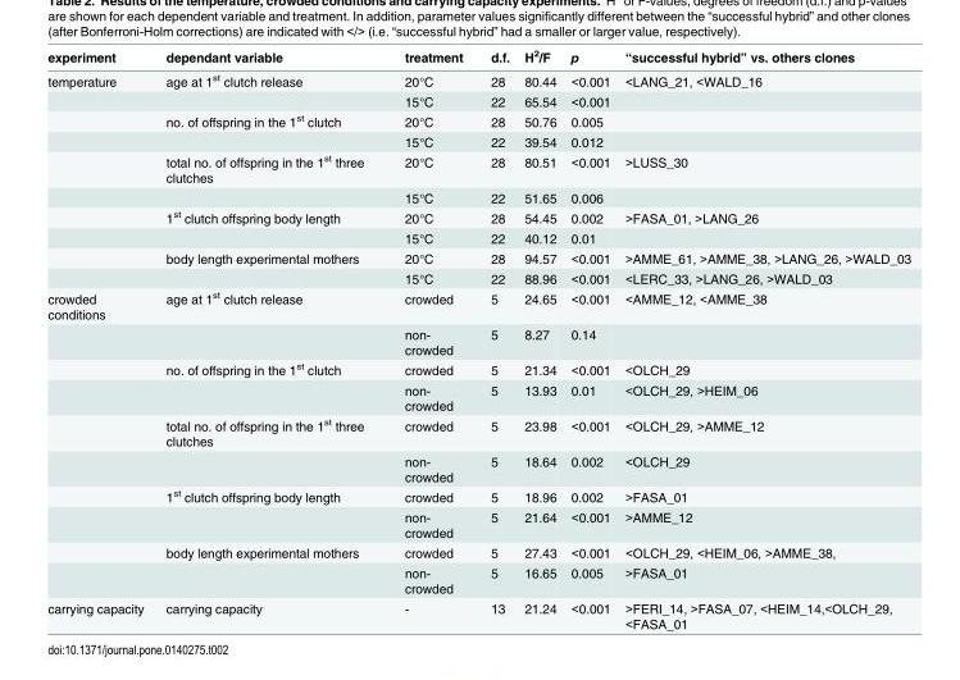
<table><thead><tr><td>experiment</td><td>dependant variable</td><td>treatment</td><td>d.f.</td><td>H<sup>2</sup>/F</td><td>p</td><td>“successful hybrid” vs. others clones</td></tr></thead><tbody><tr><td rowspan="10">temperature</td><td>age at 1<sup>st</sup> clutch release</td><td>20°C</td><td>28</td><td>80.44</td><td>&lt;0.001</td><td>&lt;LANG_21, &lt;WALD_16</td></tr><tr><td></td><td>15°C</td><td>22</td><td>65.54</td><td>&lt;0.001</td><td></td></tr><tr><td>no. of offspring in the 1<sup>st</sup> clutch</td><td>20°C</td><td>28</td><td>50.76</td><td>0.005</td><td></td></tr><tr><td></td><td>15°C</td><td>22</td><td>39.54</td><td>0.012</td><td></td></tr><tr><td>total no. of offspring in the 1<sup>st</sup> three clutches</td><td>20°C</td><td>28</td><td>80.51</td><td>&lt;0.001</td><td>&gt;LUSS_30</td></tr><tr><td></td><td>15°C</td><td>22</td><td>51.65</td><td>0.006</td><td></td></tr><tr><td>1<sup>st</sup> clutch offspring body length</td><td>20°C</td><td>28</td><td>54.45</td><td>0.002</td><td>&gt;FASA_01, &gt;LANG_26</td></tr><tr><td></td><td>15°C</td><td>22</td><td>40.12</td><td>0.01</td><td></td></tr><tr><td>body length experimental mothers</td><td>20°C</td><td>28</td><td>94.57</td><td>&lt;0.001</td><td>&gt;AMME_61, &gt;AMME_38, &gt;LANG_26, &gt;WALD_03</td></tr><tr><td></td><td>15°C</td><td>22</td><td>88.96</td><td>&lt;0.001</td><td>&lt;LERC_33, &gt;LANG_26, &gt;WALD_03</td></tr><tr><td rowspan="10">crowded conditions</td><td>age at 1<sup>st</sup> clutch release</td><td>crowded</td><td>5</td><td>24.65</td><td>&lt;0.001</td><td>&lt;AMME_12, &lt;AMME_38</td></tr><tr><td></td><td>non- crowded</td><td>5</td><td>8.27</td><td>0.14</td><td></td></tr><tr><td>no. of offspring in the 1<sup>st</sup> clutch</td><td>crowded</td><td>5</td><td>21.34</td><td>&lt;0.001</td><td>&lt;OLCH_29</td></tr><tr><td></td><td>non- crowded</td><td>5</td><td>13.93</td><td>0.01</td><td>&lt;OLCH_29, &gt;HEIM_06</td></tr><tr><td>total no. of offspring in the 1<sup>st</sup> three clutches</td><td>crowded</td><td>5</td><td>23.98</td><td>&lt;0.001</td><td>&lt;OLCH_29, &gt;AMME_12</td></tr><tr><td></td><td>non- crowded</td><td>5</td><td>18.64</td><td>0.002</td><td>&lt;OLCH_29</td></tr><tr><td>1<sup>st</sup> clutch offspring body length</td><td>crowded</td><td>5</td><td>18.96</td><td>0.002</td><td>&gt;FASA_01</td></tr><tr><td></td><td>non- crowded</td><td>5</td><td>21.64</td><td>&lt;0.001</td><td>&gt;AMME_12</td></tr><tr><td>body length experimental mothers</td><td>crowded</td><td>5</td><td>27.43</td><td>&lt;0.001</td><td>&lt;OLCH_29, &lt;HEIM_06, &gt;AMME_38,</td></tr><tr><td></td><td>non- crowded</td><td>5</td><td>16.65</td><td>0.005</td><td>&gt;FASA_01</td></tr><tr><td>carrying capacity</td><td>carrying capacity</td><td>-</td><td>13</td><td>21.24</td><td>&lt;0.001</td><td>&gt;FERI_14, &gt;FASA_07, &lt;HEIM_14,&lt;OLCH_29, &lt;FASA_01</td></tr></tbody></table>